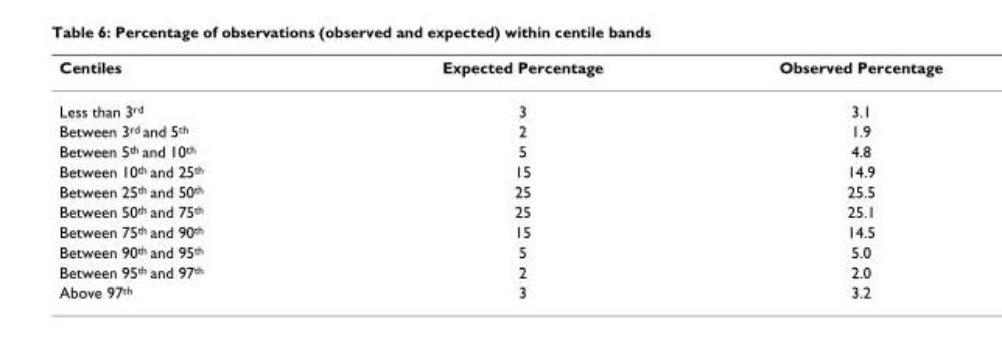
<table><thead><tr><td>Centiles</td><td>Expected Percentage</td><td>Observed Percentage</td></tr></thead><tbody><tr><td>Less than 3<sup>rd</sup></td><td>3</td><td>3.1</td></tr><tr><td>Between 3<sup>rd</sup> and 5<sup>th</sup></td><td>2</td><td>1.9</td></tr><tr><td>Between 5<sup>th</sup> and 10<sup>th</sup></td><td>5</td><td>4.8</td></tr><tr><td>Between 10<sup>th</sup> and 25<sup>th</sup></td><td>15</td><td>14.9</td></tr><tr><td>Between 25<sup>th</sup> and 50<sup>th</sup></td><td>25</td><td>25.5</td></tr><tr><td>Between 50<sup>th</sup> and 75<sup>th</sup></td><td>25</td><td>25.1</td></tr><tr><td>Between 75<sup>th</sup> and 90<sup>th</sup></td><td>15</td><td>14.5</td></tr><tr><td>Between 90<sup>th</sup> and 95<sup>th</sup></td><td>5</td><td>5.0</td></tr><tr><td>Between 95<sup>th</sup> and 97<sup>th</sup></td><td>2</td><td>2.0</td></tr><tr><td>Above 97<sup>th</sup></td><td>3</td><td>3.2</td></tr></tbody></table>